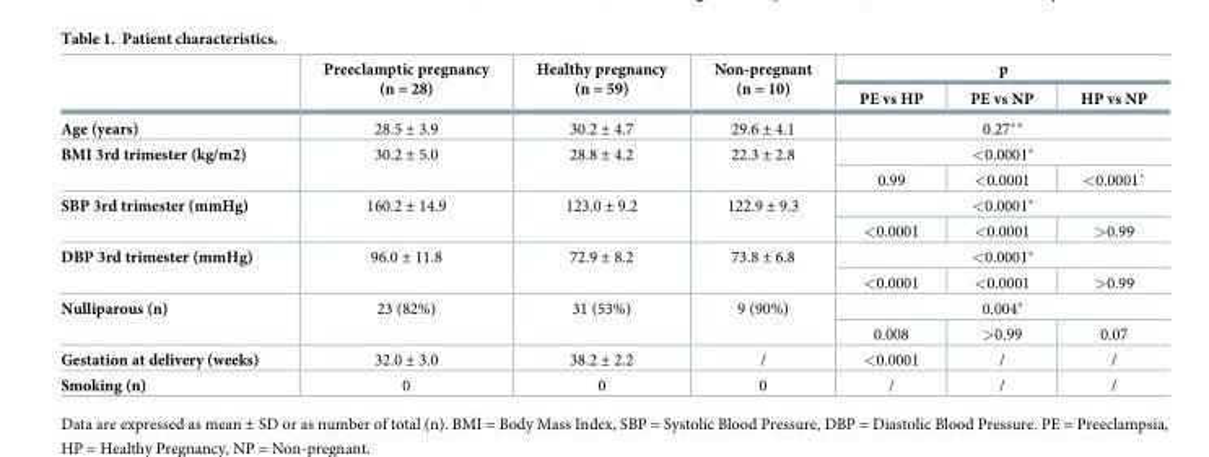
<table><thead><tr><td rowspan="2"></td><td rowspan="2">Preeclamptic pregnancy (n = 28)</td><td rowspan="2">Healthy pregnancy (n = 59)</td><td rowspan="2">Non-pregnant (n = 10)</td><td colspan="3">p</td></tr><tr><td>PE vs HP</td><td>PE vs NP</td><td>HP vs NP</td></tr></thead><tbody><tr><td>Age (years)</td><td>28.5 ± 3.9</td><td>30.2 ± 4.7</td><td>29.6 ± 4.1</td><td colspan="3">0.27**</td></tr><tr><td rowspan="2">BMI 3rd trimester (kg/m2)</td><td rowspan="2">30.2 ± 5.0</td><td rowspan="2">28.8 ± 4.2</td><td rowspan="2">22.3 ± 2.8</td><td colspan="3">&lt;0.0001*</td></tr><tr><td>0.99</td><td>&lt;0.0001</td><td>&lt;0.0001˚</td></tr><tr><td rowspan="2">SBP 3rd trimester (mmHg)</td><td rowspan="2">160.2 ± 14.9</td><td rowspan="2">123.0 ± 9.2</td><td rowspan="2">122.9 ± 9.3</td><td colspan="3">&lt;0.0001*</td></tr><tr><td>&lt;0.0001</td><td>&lt;0.0001</td><td>&gt;0.99</td></tr><tr><td rowspan="2">DBP 3rd trimester (mmHg)</td><td rowspan="2">96.0 ± 11.8</td><td rowspan="2">72.9 ± 8.2</td><td rowspan="2">73.8 ± 6.8</td><td colspan="3">&lt;0.0001*</td></tr><tr><td>&lt;0.0001</td><td>&lt;0.0001</td><td>&gt;0.99</td></tr><tr><td rowspan="2">Nulliparous (n)</td><td rowspan="2">23 (82%)</td><td rowspan="2">31 (53%)</td><td rowspan="2">9 (90%)</td><td colspan="3">0.004*</td></tr><tr><td>0.008</td><td>&gt;0.99</td><td>0.07</td></tr><tr><td>Gestation at delivery (weeks)</td><td>32.0 ± 3.0</td><td>38.2 ± 2.2</td><td>/</td><td>&lt;0.0001</td><td>/</td><td>/</td></tr><tr><td>Smoking (n)</td><td>0</td><td>0</td><td>0</td><td>/</td><td>/</td><td>/</td></tr></tbody></table>